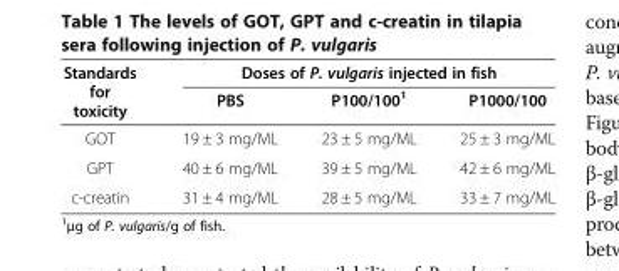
<table><thead><tr><td rowspan="2">Standards for toxicity</td><td colspan="3">Doses of P. vulgaris injected in fish</td></tr><tr><td>PBS</td><td>P100/100<sup>1</sup></td><td>P1000/100</td></tr></thead><tbody><tr><td>GOT</td><td>19 ± 3 mg/ML</td><td>23 ± 5 mg/ML</td><td>25 ± 3 mg/ML</td></tr><tr><td>GPT</td><td>40 ± 6 mg/ML</td><td>39 ± 5 mg/ML</td><td>42 ± 6 mg/ML</td></tr><tr><td>c-creatin</td><td>31 ± 4 mg/ML</td><td>28 ± 5 mg/ML</td><td>33 ± 7 mg/ML</td></tr></tbody></table>